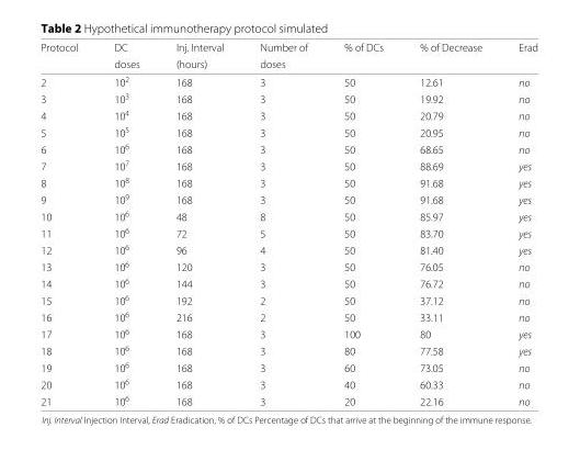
<table><thead><tr><td rowspan="2">Protocol</td><td rowspan="2">DC doses</td><td rowspan="2">Inj. Interval (hours)</td><td rowspan="2">Number of doses</td><td rowspan="2">% of DCs</td><td rowspan="2">% of Decrease</td><td rowspan="2">Erad</td></tr><tr></tr></thead><tbody><tr><td>2</td><td>10<sup>2</sup></td><td>168</td><td>3</td><td>50</td><td>12.61</td><td>no</td></tr><tr><td>3</td><td>10<sup>3</sup></td><td>168</td><td>3</td><td>50</td><td>19.92</td><td>no</td></tr><tr><td>4</td><td>10<sup>4</sup></td><td>168</td><td>3</td><td>50</td><td>20.79</td><td>no</td></tr><tr><td>5</td><td>10<sup>5</sup></td><td>168</td><td>3</td><td>50</td><td>20.95</td><td>no</td></tr><tr><td>6</td><td>10<sup>6</sup></td><td>168</td><td>3</td><td>50</td><td>68.65</td><td>no</td></tr><tr><td>7</td><td>10<sup>7</sup></td><td>168</td><td>3</td><td>50</td><td>88.69</td><td>yes</td></tr><tr><td>8</td><td>10<sup>8</sup></td><td>168</td><td>3</td><td>50</td><td>91.68</td><td>yes</td></tr><tr><td>9</td><td>10<sup>9</sup></td><td>168</td><td>3</td><td>50</td><td>91.68</td><td>yes</td></tr><tr><td>10</td><td>10<sup>6</sup></td><td>48</td><td>8</td><td>50</td><td>85.97</td><td>yes</td></tr><tr><td>11</td><td>10<sup>6</sup></td><td>72</td><td>5</td><td>50</td><td>83.70</td><td>yes</td></tr><tr><td>12</td><td>10<sup>6</sup></td><td>96</td><td>4</td><td>50</td><td>81.40</td><td>yes</td></tr><tr><td>13</td><td>10<sup>6</sup></td><td>120</td><td>3</td><td>50</td><td>76.05</td><td>no</td></tr><tr><td>14</td><td>10<sup>6</sup></td><td>144</td><td>3</td><td>50</td><td>76.72</td><td>no</td></tr><tr><td>15</td><td>10<sup>6</sup></td><td>192</td><td>2</td><td>50</td><td>37.12</td><td>no</td></tr><tr><td>16</td><td>10<sup>6</sup></td><td>216</td><td>2</td><td>50</td><td>33.11</td><td>no</td></tr><tr><td>17</td><td>10<sup>6</sup></td><td>168</td><td>3</td><td>100</td><td>80</td><td>yes</td></tr><tr><td>18</td><td>10<sup>6</sup></td><td>168</td><td>3</td><td>80</td><td>77.58</td><td>yes</td></tr><tr><td>19</td><td>10<sup>6</sup></td><td>168</td><td>3</td><td>60</td><td>73.05</td><td>no</td></tr><tr><td>20</td><td>10<sup>6</sup></td><td>168</td><td>3</td><td>40</td><td>60.33</td><td>no</td></tr><tr><td>21</td><td>10<sup>6</sup></td><td>168</td><td>3</td><td>20</td><td>22.16</td><td>no</td></tr></tbody></table>